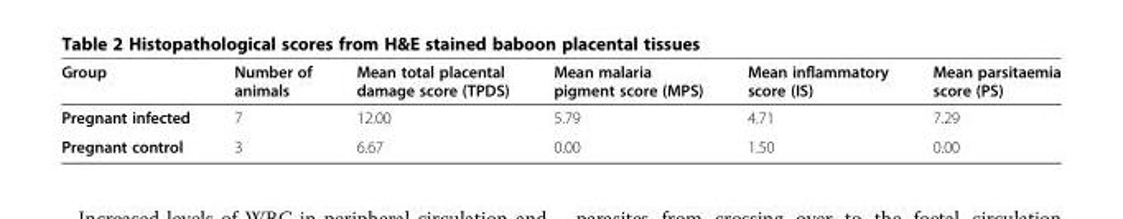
<table><thead><tr><td>Group</td><td>Number of animals</td><td>Mean total placental damage score (TPDS)</td><td>Mean malaria pigment score (MPS)</td><td>Mean inflammatory score (IS)</td><td>Mean parsitaemia score (PS)</td></tr></thead><tbody><tr><td>Pregnant infected</td><td>7</td><td>12.00</td><td>5.79</td><td>4.71</td><td>7.29</td></tr><tr><td>Pregnant control</td><td>3</td><td>6.67</td><td>0.00</td><td>1.50</td><td>0.00</td></tr></tbody></table>